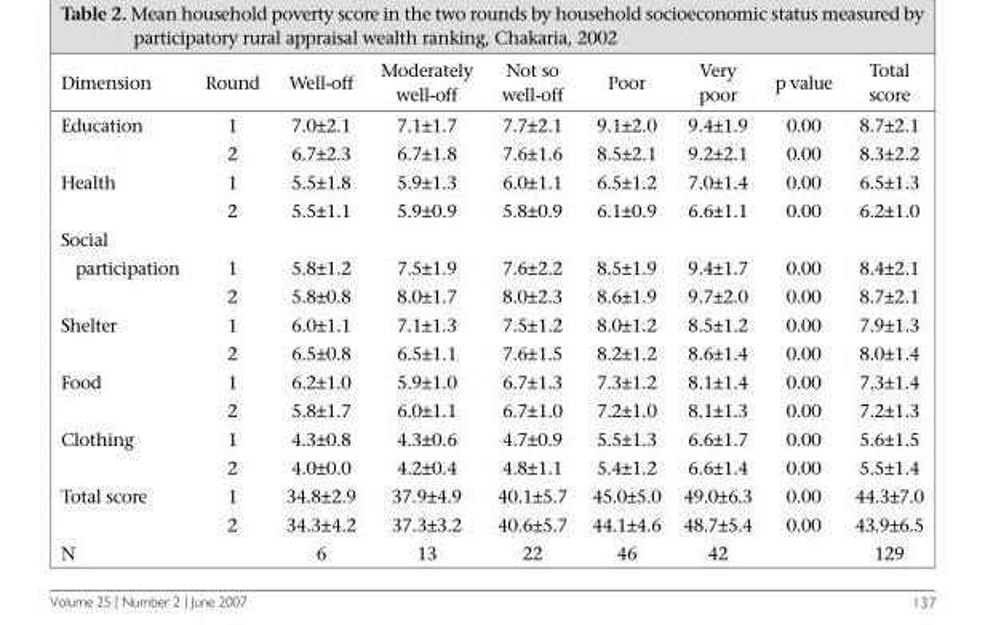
<table><thead><tr><td>Dimension</td><td>Round</td><td>Well-off</td><td>Moderately well-off</td><td>Not so well-off</td><td>Poor</td><td>Very poor</td><td>p value</td><td>Total score</td></tr></thead><tbody><tr><td rowspan="2">Education</td><td>1</td><td>7.0±2.1</td><td>7.1±1.7</td><td>7.7±2.1</td><td>9.1±2.0</td><td>9.4±1.9</td><td>0.00</td><td>8.7±2.1</td></tr><tr><td>2</td><td>6.7±2.3</td><td>6.7±1.8</td><td>7.6±1.6</td><td>8.5±2.1</td><td>9.2±2.1</td><td>0.00</td><td>8.3±2.2</td></tr><tr><td rowspan="2">Health</td><td>1</td><td>5.5±1.8</td><td>5.9±1.3</td><td>6.0±1.1</td><td>6.5±1.2</td><td>7.0±1.4</td><td>0.00</td><td>6.5±1.3</td></tr><tr><td>2</td><td>5.5±1.1</td><td>5.9±0.9</td><td>5.8±0.9</td><td>6.1±0.9</td><td>6.6±1.1</td><td>0.00</td><td>6.2±1.0</td></tr><tr><td colspan="9">Social</td></tr><tr><td rowspan="2">participation</td><td>1</td><td>5.8±1.2</td><td>7.5±1.9</td><td>7.6±2.2</td><td>8.5±1.9</td><td>9.4±1.7</td><td>0.00</td><td>8.4±2.1</td></tr><tr><td>2</td><td>5.8±0.8</td><td>8.0±1.7</td><td>8.0±2.3</td><td>8.6±1.9</td><td>9.7±2.0</td><td>0.00</td><td>8.7±2.1</td></tr><tr><td rowspan="2">Shelter</td><td>1</td><td>6.0±1.1</td><td>7.1±1.3</td><td>7.5±1.2</td><td>8.0±1.2</td><td>8.5±1.2</td><td>0.00</td><td>7.9±1.3</td></tr><tr><td>2</td><td>6.5±0.8</td><td>6.5±1.1</td><td>7.6±1.5</td><td>8.2±1.2</td><td>8.6±1.4</td><td>0.00</td><td>8.0±1.4</td></tr><tr><td rowspan="2">Food</td><td>1</td><td>6.2±1.0</td><td>5.9±1.0</td><td>6.7±1.3</td><td>7.3±1.2</td><td>8.1±1.4</td><td>0.00</td><td>7.3±1.4</td></tr><tr><td>2</td><td>5.8±1.7</td><td>6.0±1.1</td><td>6.7±1.0</td><td>7.2±1.0</td><td>8.1±1.3</td><td>0.00</td><td>7.2±1.3</td></tr><tr><td rowspan="2">Clothing</td><td>1</td><td>4.3±0.8</td><td>4.3±0.6</td><td>4.7±0.9</td><td>5.5±1.3</td><td>6.6±1.7</td><td>0.00</td><td>5.6±1.5</td></tr><tr><td>2</td><td>4.0±0.0</td><td>4.2±0.4</td><td>4.8±1.1</td><td>5.4±1.2</td><td>6.6±1.4</td><td>0.00</td><td>5.5±1.4</td></tr><tr><td rowspan="2">Total score</td><td>1</td><td>34.8±2.9</td><td>37.9±4.9</td><td>40.1±5.7</td><td>45.0±5.0</td><td>49.0±6.3</td><td>0.00</td><td>44.3±7.0</td></tr><tr><td>2</td><td>34.3±4.2</td><td>37.3±3.2</td><td>40.6±5.7</td><td>44.1±4.6</td><td>48.7±5.4</td><td>0.00</td><td>43.9±6.5</td></tr><tr><td>N</td><td></td><td>6</td><td>13</td><td>22</td><td>46</td><td>42</td><td></td><td>129</td></tr></tbody></table>